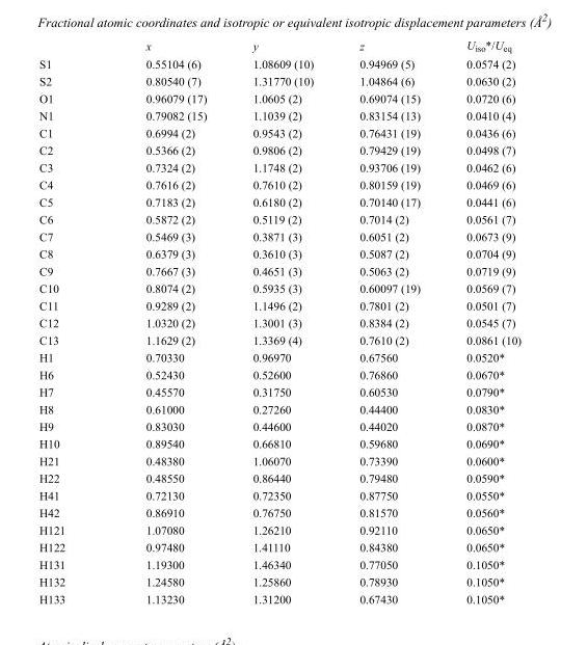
<table><thead><tr><td></td><td>x</td><td>y</td><td>z</td><td>U<sub>iso</sub>*/U<sub>eq</sub></td></tr></thead><tbody><tr><td>S1</td><td>0.55104 (6)</td><td>1.08609 (10)</td><td>0.94969 (5)</td><td>0.0574 (2)</td></tr><tr><td>S2</td><td>0.80540 (7)</td><td>1.31770 (10)</td><td>1.04864 (6)</td><td>0.0630 (2)</td></tr><tr><td>O1</td><td>0.96079 (17)</td><td>1.0605 (2)</td><td>0.69074 (15)</td><td>0.0720 (6)</td></tr><tr><td>N1</td><td>0.79082 (15)</td><td>1.1039 (2)</td><td>0.83154 (13)</td><td>0.0410 (4)</td></tr><tr><td>C1</td><td>0.6994 (2)</td><td>0.9543 (2)</td><td>0.76431 (19)</td><td>0.0436 (6)</td></tr><tr><td>C2</td><td>0.5366 (2)</td><td>0.9806 (2)</td><td>0.79429 (19)</td><td>0.0498 (7)</td></tr><tr><td>C3</td><td>0.7324 (2)</td><td>1.1748 (2)</td><td>0.93706 (19)</td><td>0.0462 (6)</td></tr><tr><td>C4</td><td>0.7616 (2)</td><td>0.7610 (2)</td><td>0.80159 (19)</td><td>0.0469 (6)</td></tr><tr><td>C5</td><td>0.7183 (2)</td><td>0.6180 (2)</td><td>0.70140 (17)</td><td>0.0441 (6)</td></tr><tr><td>C6</td><td>0.5872 (2)</td><td>0.5119 (2)</td><td>0.7014 (2)</td><td>0.0561 (7)</td></tr><tr><td>C7</td><td>0.5469 (3)</td><td>0.3871 (3)</td><td>0.6051 (2)</td><td>0.0673 (9)</td></tr><tr><td>C8</td><td>0.6379 (3)</td><td>0.3610 (3)</td><td>0.5087 (2)</td><td>0.0704 (9)</td></tr><tr><td>C9</td><td>0.7667 (3)</td><td>0.4651 (3)</td><td>0.5063 (2)</td><td>0.0719 (9)</td></tr><tr><td>C10</td><td>0.8074 (2)</td><td>0.5935 (3)</td><td>0.60097 (19)</td><td>0.0569 (7)</td></tr><tr><td>C11</td><td>0.9289 (2)</td><td>1.1496 (2)</td><td>0.7801 (2)</td><td>0.0501 (7)</td></tr><tr><td>C12</td><td>1.0320 (2)</td><td>1.3001 (3)</td><td>0.8384 (2)</td><td>0.0545 (7)</td></tr><tr><td>C13</td><td>1.1629 (2)</td><td>1.3369 (4)</td><td>0.7610 (2)</td><td>0.0861 (10)</td></tr><tr><td>H1</td><td>0.70330</td><td>0.96970</td><td>0.67560</td><td>0.0520*</td></tr><tr><td>H6</td><td>0.52430</td><td>0.52600</td><td>0.76860</td><td>0.0670*</td></tr><tr><td>H7</td><td>0.45570</td><td>0.31750</td><td>0.60530</td><td>0.0790*</td></tr><tr><td>H8</td><td>0.61000</td><td>0.27260</td><td>0.44400</td><td>0.0830*</td></tr><tr><td>H9</td><td>0.83030</td><td>0.44600</td><td>0.44020</td><td>0.0870*</td></tr><tr><td>H10</td><td>0.89540</td><td>0.66810</td><td>0.59680</td><td>0.0690*</td></tr><tr><td>H21</td><td>0.48380</td><td>1.06070</td><td>0.73390</td><td>0.0600*</td></tr><tr><td>H22</td><td>0.48550</td><td>0.86440</td><td>0.79480</td><td>0.0590*</td></tr><tr><td>H41</td><td>0.72130</td><td>0.72350</td><td>0.87750</td><td>0.0550*</td></tr><tr><td>H42</td><td>0.86910</td><td>0.76750</td><td>0.81570</td><td>0.0560*</td></tr><tr><td>H121</td><td>1.07080</td><td>1.26210</td><td>0.92110</td><td>0.0650*</td></tr><tr><td>H122</td><td>0.97480</td><td>1.41110</td><td>0.84380</td><td>0.0650*</td></tr><tr><td>H131</td><td>1.19300</td><td>1.46340</td><td>0.77050</td><td>0.1050*</td></tr><tr><td>H132</td><td>1.24580</td><td>1.25860</td><td>0.78930</td><td>0.1050*</td></tr><tr><td>H133</td><td>1.13230</td><td>1.31200</td><td>0.67430</td><td>0.1050*</td></tr></tbody></table>